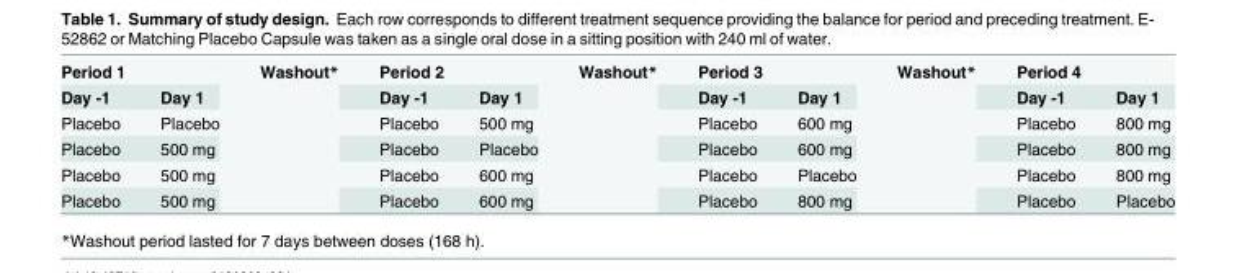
<table><tbody><tr><td colspan="2">Period 1</td><td rowspan="6">Washout*</td><td colspan="2">Period 2</td><td rowspan="6">Washout*</td><td colspan="2">Period 3</td><td rowspan="6">Washout*</td><td colspan="2">Period 4</td></tr><tr><td>Day -1</td><td>Day 1</td><td>Day -1</td><td>Day 1</td><td>Day -1</td><td>Day 1</td><td>Day -1</td><td>Day 1</td></tr><tr><td>Placebo</td><td>Placebo</td><td>Placebo</td><td>500 mg</td><td>Placebo</td><td>600 mg</td><td>Placebo</td><td>800 mg</td></tr><tr><td>Placebo</td><td>500 mg</td><td>Placebo</td><td>Placebo</td><td>Placebo</td><td>600 mg</td><td>Placebo</td><td>800 mg</td></tr><tr><td>Placebo</td><td>500 mg</td><td>Placebo</td><td>600 mg</td><td>Placebo</td><td>Placebo</td><td>Placebo</td><td>800 mg</td></tr><tr><td>Placebo</td><td>500 mg</td><td>Placebo</td><td>600 mg</td><td>Placebo</td><td>800 mg</td><td>Placebo</td><td>Placebo</td></tr></tbody></table>